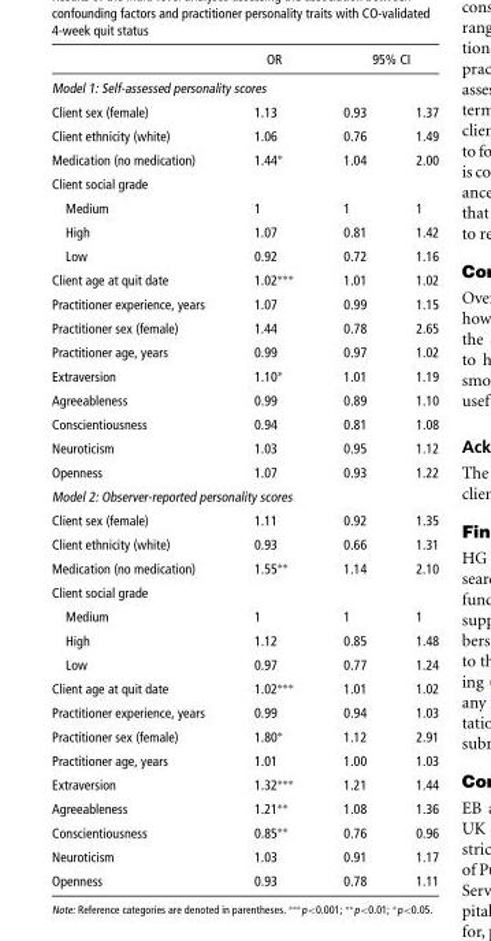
<table><thead><tr><td></td><td>OR</td><td colspan="2">95% CI</td></tr><tr><td colspan="4">Model 1: Self-assessed personality scores</td></tr><tr><td>Client sex (female)</td><td>1.13</td><td>0.93</td><td>1.37</td></tr></thead><tbody><tr><td>Client ethnicity (white)</td><td>1.06</td><td>0.76</td><td>1.49</td></tr><tr><td>Medication (no medication)</td><td>1.44∗</td><td>1.04</td><td>2.00</td></tr><tr><td colspan="4">Client social grade</td></tr><tr><td>Medium</td><td>1</td><td>1</td><td>1</td></tr><tr><td>High</td><td>1.07</td><td>0.81</td><td>1.42</td></tr><tr><td>Low</td><td>0.92</td><td>0.72</td><td>1.16</td></tr><tr><td>Client age at quit date</td><td>1.02∗∗∗</td><td>1.01</td><td>1.02</td></tr><tr><td>Practitioner experience, years</td><td>1.07</td><td>0.99</td><td>1.15</td></tr><tr><td>Practitioner sex (female)</td><td>1.44</td><td>0.78</td><td>2.65</td></tr><tr><td>Practitioner age, years</td><td>0.99</td><td>0.97</td><td>1.02</td></tr><tr><td>Extraversion</td><td>1.10∗</td><td>1.01</td><td>1.19</td></tr><tr><td>Agreeableness</td><td>0.99</td><td>0.89</td><td>1.10</td></tr><tr><td>Conscientiousness</td><td>0.94</td><td>0.81</td><td>1.08</td></tr><tr><td>Neuroticism</td><td>1.03</td><td>0.95</td><td>1.12</td></tr><tr><td>Openness</td><td>1.07</td><td>0.93</td><td>1.22</td></tr><tr><td colspan="4">Model 2: Observer-reported personality scores</td></tr><tr><td>Client sex (female)</td><td>1.11</td><td>0.92</td><td>1.35</td></tr><tr><td>Client ethnicity (white)</td><td>0.93</td><td>0.66</td><td>1.31</td></tr><tr><td>Medication (no medication)</td><td>1.55∗∗</td><td>1.14</td><td>2.10</td></tr><tr><td colspan="4">Client social grade</td></tr><tr><td>Medium</td><td>1</td><td>1</td><td>1</td></tr><tr><td>High</td><td>1.12</td><td>0.85</td><td>1.48</td></tr><tr><td>Low</td><td>0.97</td><td>0.77</td><td>1.24</td></tr><tr><td>Client age at quit date</td><td>1.02∗∗∗</td><td>1.01</td><td>1.02</td></tr><tr><td>Practitioner experience, years</td><td>0.99</td><td>0.94</td><td>1.03</td></tr><tr><td>Practitioner sex (female)</td><td>1.80∗</td><td>1.12</td><td>2.91</td></tr><tr><td>Practitioner age, years</td><td>1.01</td><td>1.00</td><td>1.03</td></tr><tr><td>Extraversion</td><td>1.32∗∗∗</td><td>1.21</td><td>1.44</td></tr><tr><td>Agreeableness</td><td>1.21∗∗</td><td>1.08</td><td>1.36</td></tr><tr><td>Conscientiousness</td><td>0.85∗∗</td><td>0.76</td><td>0.96</td></tr><tr><td>Neuroticism</td><td>1.03</td><td>0.91</td><td>1.17</td></tr><tr><td>Openness</td><td>0.93</td><td>0.78</td><td>1.11</td></tr></tbody></table>